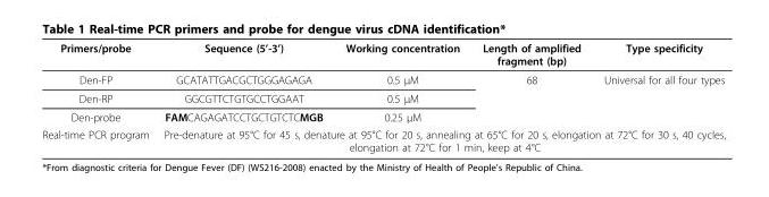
<table><thead><tr><td>Primers/probe</td><td>Sequence (5’-3’)</td><td>Working concentration</td><td>Length of amplified fragment (bp)</td><td>Type specificity</td></tr></thead><tbody><tr><td>Den-FP</td><td>GCATATTGACGCTGGGAGAGA</td><td>0.5 μM</td><td>68</td><td>Universal for all four types</td></tr><tr><td>Den-RP</td><td>GGCGTTCTGTGCCTGGAAT</td><td>0.5 μM</td><td></td><td></td></tr><tr><td>Den-probe</td><td>FAMCAGAGATCCTGCTGTCTCMGB</td><td>0.25 μM</td><td></td><td></td></tr><tr><td>Real-time PCR program</td><td colspan="4">Pre-denature at 95°C for 45 s, denature at 95°C for 20 s, annealing at 65°C for 20 s, elongation at 72°C for 30 s, 40 cycles, elongation at 72°C for 1 min, keep at 4°C</td></tr></tbody></table>